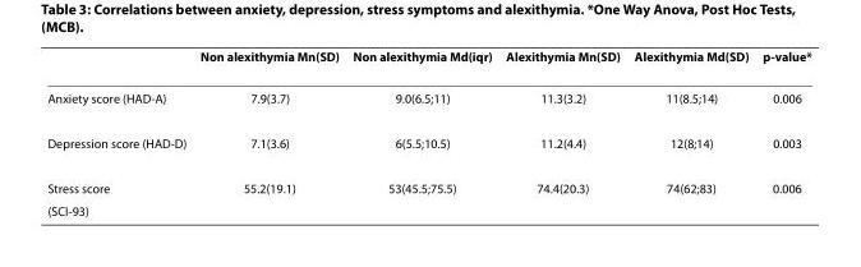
<table><thead><tr><td></td><td>Non alexithymia Mn(SD)</td><td>Non alexithymia Md(iqr)</td><td>Alexithymia Mn(SD)</td><td>Alexithymia Md(SD)</td><td>p-value*</td></tr></thead><tbody><tr><td>Anxiety score (HAD-A)</td><td>7.9(3.7)</td><td>9.0(6.5;11)</td><td>11.3(3.2)</td><td>11(8.5;14)</td><td>0.006</td></tr><tr><td>Depression score (HAD-D)</td><td>7.1(3.6)</td><td>6(5.5;10.5)</td><td>11.2(4.4)</td><td>12(8;14)</td><td>0.003</td></tr><tr><td>Stress score</td><td>55.2(19.1)</td><td>53(45.5;75.5)</td><td>74.4(20.3)</td><td>74(62;83)</td><td>0.006</td></tr><tr><td>(SCI-93)</td><td></td><td></td><td></td><td></td><td></td></tr></tbody></table>